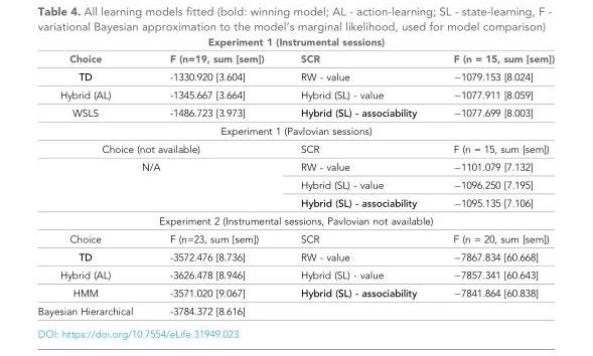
<table><thead><tr><td colspan="4">Experiment 1 (Instrumental sessions)</td></tr><tr><td>Choice</td><td>F (n=19, sum [sem])</td><td>SCR</td><td>F (n = 15, sum [sem])</td></tr></thead><tbody><tr><td>TD</td><td>-1330.920 [3.604]</td><td>RW - value</td><td>−1079.153 [8.024]</td></tr><tr><td>Hybrid (AL)</td><td>-1345.667 [3.664]</td><td>Hybrid (SL) - value</td><td>−1077.911 [8.059]</td></tr><tr><td>WSLS</td><td>-1486.723 [3.973]</td><td>Hybrid (SL) - associability</td><td>−1077.699 [8.003]</td></tr><tr><td colspan="4">Experiment 1 (Pavlovian sessions)</td></tr><tr><td colspan="2">Choice (not available)</td><td>SCR</td><td>F (n = 15, sum [sem])</td></tr><tr><td rowspan="3" colspan="2">N/A</td><td>RW - value</td><td>−1101.079 [7.132]</td></tr><tr><td>Hybrid (SL) - value</td><td>−1096.250 [7.195]</td></tr><tr><td>Hybrid (SL) - associability</td><td>−1095.135 [7.106]</td></tr><tr><td colspan="4">Experiment 2 (Instrumental sessions, Pavlovian not available)</td></tr><tr><td>Choice</td><td>F (n=23, sum [sem])</td><td>SCR</td><td>F (n = 20, sum [sem])</td></tr><tr><td>TD</td><td>-3572.476 [8.736]</td><td>RW - value</td><td>−7867.834 [60.668]</td></tr><tr><td>Hybrid (AL)</td><td>-3626.478 [8.946]</td><td>Hybrid (SL) - value</td><td>−7857.341 [60.643]</td></tr><tr><td>HMM</td><td>-3571.020 [9.067]</td><td>Hybrid (SL) - associability</td><td>−7841.864 [60.838]</td></tr><tr><td>Bayesian Hierarchical</td><td>-3784.372 [8.616]</td><td></td><td></td></tr></tbody></table>